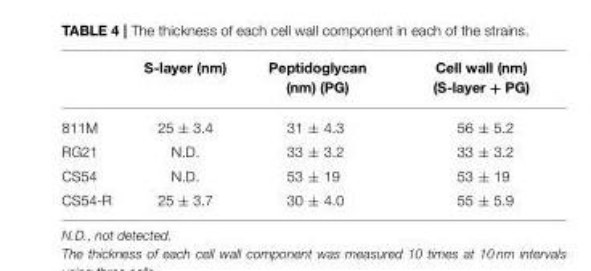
<table><thead><tr><td></td><td>S-layer (nm)</td><td>Peptidoglycan (nm) (PG)</td><td>Cell wall (nm) (S-layer + PG)</td></tr></thead><tbody><tr><td>811M</td><td>25 ± 3.4</td><td>31 ± 4.3</td><td>56 ± 5.2</td></tr><tr><td>RG21</td><td>N.D.</td><td>33 ± 3.2</td><td>33 ± 3.2</td></tr><tr><td>CS54</td><td>N.D.</td><td>53 ± 19</td><td>53 ± 19</td></tr><tr><td>CS54-R</td><td>25 ± 3.7</td><td>30 ± 4.0</td><td>55 ± 5.9</td></tr></tbody></table>